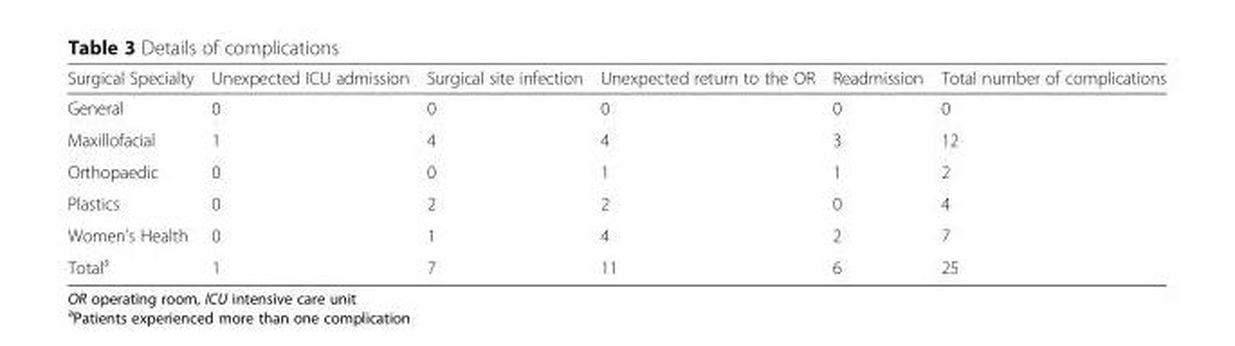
<table><thead><tr><td>Surgical Specialty</td><td>Unexpected ICU admission</td><td>Surgical site infection</td><td>Unexpected return to the OR</td><td>Readmission</td><td>Total number of complications</td></tr></thead><tbody><tr><td>General</td><td>0</td><td>0</td><td>0</td><td>0</td><td>0</td></tr><tr><td>Maxillofacial</td><td>1</td><td>4</td><td>4</td><td>3</td><td>12</td></tr><tr><td>Orthopaedic</td><td>0</td><td>0</td><td>1</td><td>1</td><td>2</td></tr><tr><td>Plastics</td><td>0</td><td>2</td><td>2</td><td>0</td><td>4</td></tr><tr><td>Women’s Health</td><td>0</td><td>1</td><td>4</td><td>2</td><td>7</td></tr><tr><td>Total<sup>a</sup></td><td>1</td><td>7</td><td>11</td><td>6</td><td>25</td></tr></tbody></table>